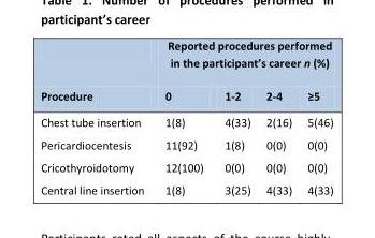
<table><thead><tr><td rowspan="2">Procedure</td><td colspan="4">Reported procedures performed in the participant’s career n (%)</td></tr><tr><td>0</td><td>1-2</td><td>2-4</td><td>≥5</td></tr></thead><tbody><tr><td>Chest tube insertion</td><td>1(8)</td><td>4(33)</td><td>2(16)</td><td>5(46)</td></tr><tr><td>Pericardiocentesis</td><td>11(92)</td><td>1(8)</td><td>0(0)</td><td>0(0)</td></tr><tr><td>Cricothyroidotomy</td><td>12(100)</td><td>0(0)</td><td>0(0)</td><td>0(0)</td></tr><tr><td>Central line insertion</td><td>1(8)</td><td>3(25)</td><td>4(33)</td><td>4(33)</td></tr></tbody></table>